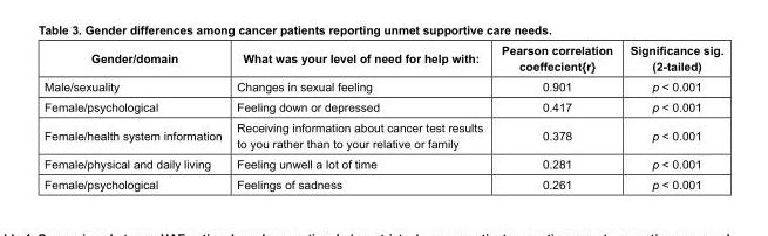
<table><thead><tr><td>Gender/domain</td><td>What was your level of need for help with:</td><td>Pearson correlation coeffecient{r}</td><td>Significance sig. (2-tailed)</td></tr></thead><tbody><tr><td>Male/sexuality</td><td>Changes in sexual feeling</td><td>0.901</td><td>p &lt; 0.001</td></tr><tr><td>Female/psychological</td><td>Feeling down or depressed</td><td>0.417</td><td>p &lt; 0.001</td></tr><tr><td>Female/health system information</td><td>Receiving information about cancer test results to you rather than to your relative or family</td><td>0.378</td><td>p &lt; 0.001</td></tr><tr><td>Female/physical and daily living</td><td>Feeling unwell a lot of time</td><td>0.281</td><td>p &lt; 0.001</td></tr><tr><td>Female/psychological</td><td>Feelings of sadness</td><td>0.261</td><td>p &lt; 0.001</td></tr></tbody></table>